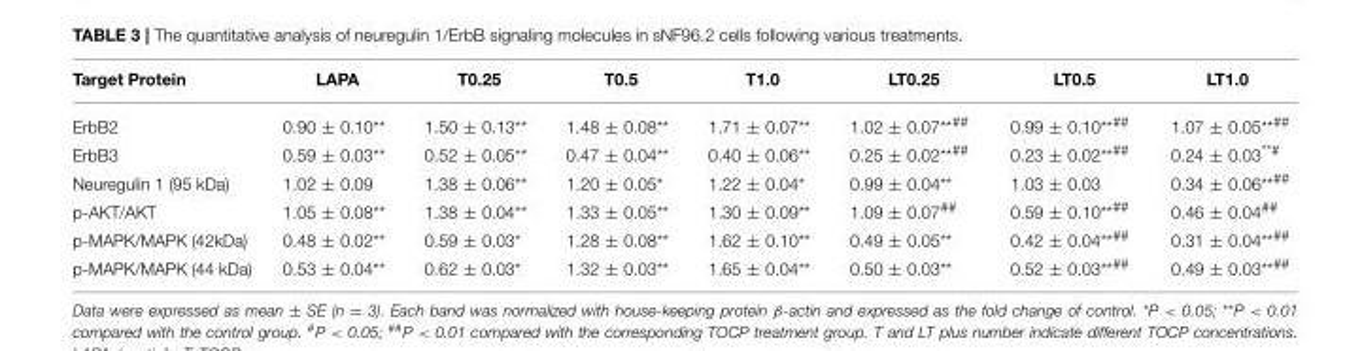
<table><thead><tr><td>Target Protein</td><td>LAPA</td><td>T0.25</td><td>T0.5</td><td>T1.0</td><td>LT0.25</td><td>LT0.5</td><td>LT1.0</td></tr></thead><tbody><tr><td>ErbB2</td><td>0.90 ± 0.10**</td><td>1.50 ± 0.13**</td><td>1.48 ± 0.08**</td><td>1.71 ± 0.07**</td><td>1.02 ± 0.07<sup>**##</sup></td><td>0.99 ± 0.10<sup>**##</sup></td><td>1.07 ± 0.05<sup>**##</sup></td></tr><tr><td>ErbB3</td><td>0.59 ± 0.03**</td><td>0.52 ± 0.05**</td><td>0.47 ± 0.04**</td><td>0.40 ± 0.06**</td><td>0.25 ± 0.02<sup>**##</sup></td><td>0.23 ± 0.02<sup>**##</sup></td><td>0.24 ± 0.03<sup>**#</sup></td></tr><tr><td>Neuregulin 1 (95 kDa)</td><td>1.02 ± 0.09</td><td>1.38 ± 0.06**</td><td>1.20 ± 0.05*</td><td>1.22 ± 0.04*</td><td>0.99 ± 0.04**</td><td>1.03 ± 0.03</td><td>0.34 ± 0.06<sup>**##</sup></td></tr><tr><td>p-AKT/AKT</td><td>1.05 ± 0.08**</td><td>1.38 ± 0.04**</td><td>1.33 ± 0.05**</td><td>1.30 ± 0.09**</td><td>1.09 ± 0.07<sup>##</sup></td><td>0.59 ± 0.10<sup>**##</sup></td><td>0.46 ± 0.04<sup>##</sup></td></tr><tr><td>p-MAPK/MAPK (42kDa)</td><td>0.48 ± 0.02**</td><td>0.59 ± 0.03*</td><td>1.28 ± 0.08**</td><td>1.62 ± 0.10**</td><td>0.49 ± 0.05**</td><td>0.42 ± 0.04<sup>**##</sup></td><td>0.31 ± 0.04<sup>**##</sup></td></tr><tr><td>p-MAPK/MAPK (44 kDa)</td><td>0.53 ± 0.04**</td><td>0.62 ± 0.03*</td><td>1.32 ± 0.03**</td><td>1.65 ± 0.04**</td><td>0.50 ± 0.03**</td><td>0.52 ± 0.03<sup>**##</sup></td><td>0.49 ± 0.03<sup>**##</sup></td></tr></tbody></table>